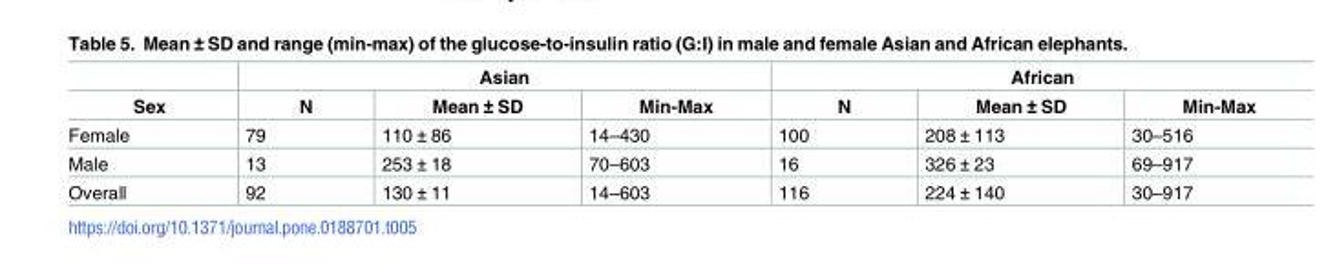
<table><thead><tr><td rowspan="2">Sex</td><td colspan="3">Asian</td><td colspan="3">African</td></tr><tr><td>N</td><td>Mean ± SD</td><td>Min-Max</td><td>N</td><td>Mean ± SD</td><td>Min-Max</td></tr></thead><tbody><tr><td>Female</td><td>79</td><td>110 ± 86</td><td>14–430</td><td>100</td><td>208 ± 113</td><td>30–516</td></tr><tr><td>Male</td><td>13</td><td>253 ± 18</td><td>70–603</td><td>16</td><td>326 ± 23</td><td>69–917</td></tr><tr><td>Overall</td><td>92</td><td>130 ± 11</td><td>14–603</td><td>116</td><td>224 ± 140</td><td>30–917</td></tr></tbody></table>